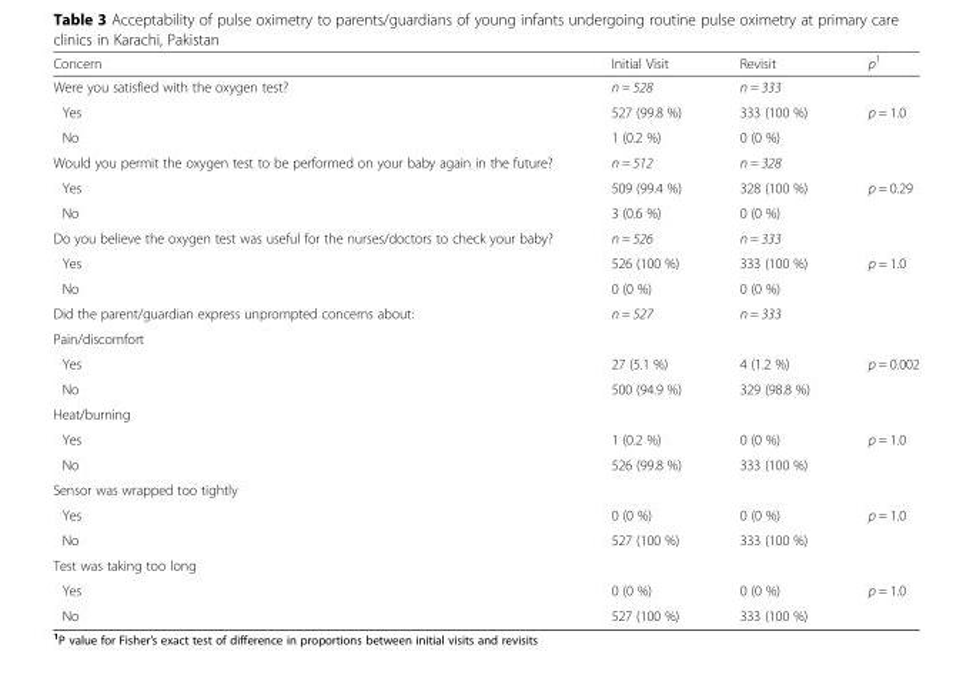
<table><thead><tr><td>Concern</td><td>Initial Visit</td><td>Revisit</td><td>p<sup>1</sup></td></tr></thead><tbody><tr><td>Were you satisfied with the oxygen test?</td><td>n = 528</td><td>n = 333</td><td></td></tr><tr><td>Yes</td><td>527 (99.8 %)</td><td>333 (100 %)</td><td>p = 1.0</td></tr><tr><td>No</td><td>1 (0.2 %)</td><td>0 (0 %)</td><td></td></tr><tr><td>Would you permit the oxygen test to be performed on your baby again in the future?</td><td>n = 512</td><td>n = 328</td><td></td></tr><tr><td>Yes</td><td>509 (99.4 %)</td><td>328 (100 %)</td><td>p = 0.29</td></tr><tr><td>No</td><td>3 (0.6 %)</td><td>0 (0 %)</td><td></td></tr><tr><td>Do you believe the oxygen test was useful for the nurses/doctors to check your baby?</td><td>n = 526</td><td>n = 333</td><td></td></tr><tr><td>Yes</td><td>526 (100 %)</td><td>333 (100 %)</td><td>p = 1.0</td></tr><tr><td>No</td><td>0 (0 %)</td><td>0 (0 %)</td><td></td></tr><tr><td>Did the parent/guardian express unprompted concerns about:</td><td>n = 527</td><td>n = 333</td><td></td></tr><tr><td colspan="4">Pain/discomfort</td></tr><tr><td>Yes</td><td>27 (5.1 %)</td><td>4 (1.2 %)</td><td>p = 0.002</td></tr><tr><td>No</td><td>500 (94.9 %)</td><td>329 (98.8 %)</td><td></td></tr><tr><td colspan="4">Heat/burning</td></tr><tr><td>Yes</td><td>1 (0.2 %)</td><td>0 (0 %)</td><td>p = 1.0</td></tr><tr><td>No</td><td>526 (99.8 %)</td><td>333 (100 %)</td><td></td></tr><tr><td colspan="4">Sensor was wrapped too tightly</td></tr><tr><td>Yes</td><td>0 (0 %)</td><td>0 (0 %)</td><td>p = 1.0</td></tr><tr><td>No</td><td>527 (100 %)</td><td>333 (100 %)</td><td></td></tr><tr><td colspan="4">Test was taking too long</td></tr><tr><td>Yes</td><td>0 (0 %)</td><td>0 (0 %)</td><td>p = 1.0</td></tr><tr><td>No</td><td>527 (100 %)</td><td>333 (100 %)</td><td></td></tr></tbody></table>